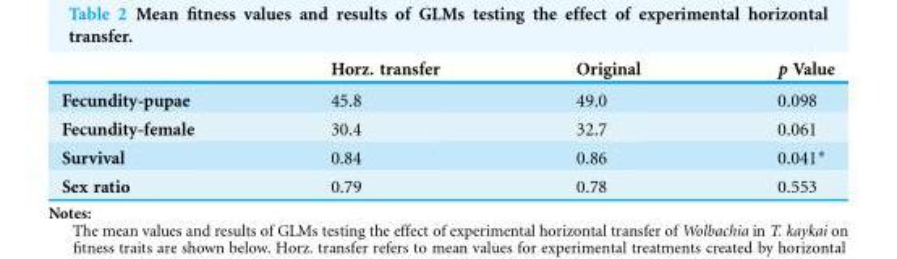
<table><thead><tr><td></td><td>Horz. transfer</td><td>Original</td><td>p Value</td></tr></thead><tbody><tr><td>Fecundity-pupae</td><td>45.8</td><td>49.0</td><td>0.098</td></tr><tr><td>Fecundity-female</td><td>30.4</td><td>32.7</td><td>0.061</td></tr><tr><td>Survival</td><td>0.84</td><td>0.86</td><td>0.041*</td></tr><tr><td>Sex ratio</td><td>0.79</td><td>0.78</td><td>0.553</td></tr></tbody></table>